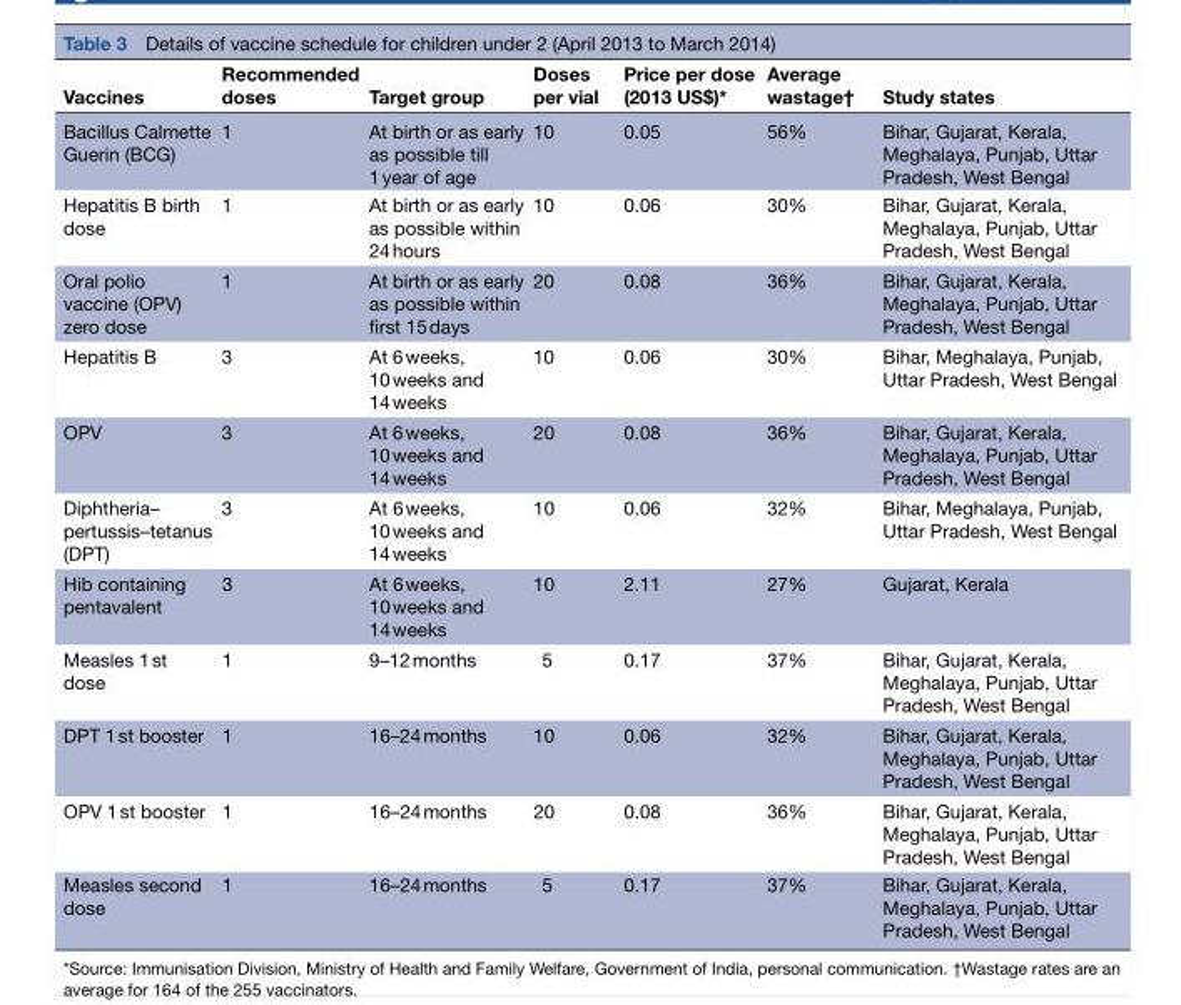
<table><thead><tr><td>Vaccines</td><td>Recommended doses</td><td>Target group</td><td>Doses per vial</td><td>Price per dose (2013 US$)*</td><td>Average wastage†</td><td>Study states</td></tr></thead><tbody><tr><td>Bacillus Calmette Guerin (BCG)</td><td>1</td><td>At birth or as early as possible till 1 year of age</td><td>10</td><td>0.05</td><td>56%</td><td>Bihar, Gujarat, Kerala, Meghalaya, Punjab, Uttar Pradesh, West Bengal</td></tr><tr><td>Hepatitis B birth dose</td><td>1</td><td>At birth or as early as possible within 24 hours</td><td>10</td><td>0.06</td><td>30%</td><td>Bihar, Gujarat, Kerala, Meghalaya, Punjab, Uttar Pradesh, West Bengal</td></tr><tr><td>Oral polio vaccine (OPV) zero dose</td><td>1</td><td>At birth or as early as possible within first 15 days</td><td>20</td><td>0.08</td><td>36%</td><td>Bihar, Gujarat, Kerala, Meghalaya, Punjab, Uttar Pradesh, West Bengal</td></tr><tr><td>Hepatitis B</td><td>3</td><td>At 6 weeks, 10 weeks and 14 weeks</td><td>10</td><td>0.06</td><td>30%</td><td>Bihar, Meghalaya, Punjab, Uttar Pradesh, West Bengal</td></tr><tr><td>OPV</td><td>3</td><td>At 6 weeks, 10 weeks and 14 weeks</td><td>20</td><td>0.08</td><td>36%</td><td>Bihar, Gujarat, Kerala, Meghalaya, Punjab, Uttar Pradesh, West Bengal</td></tr><tr><td>Diphtheria– pertussis–tetanus (DPT)</td><td>3</td><td>At 6 weeks, 10 weeks and 14 weeks</td><td>10</td><td>0.06</td><td>32%</td><td>Bihar, Meghalaya, Punjab, Uttar Pradesh, West Bengal</td></tr><tr><td>Hib containing pentavalent</td><td>3</td><td>At 6 weeks, 10 weeks and 14 weeks</td><td>10</td><td>2.11</td><td>27%</td><td>Gujarat, Kerala</td></tr><tr><td>Measles 1 st dose</td><td>1</td><td>9–12 months</td><td>5</td><td>0.17</td><td>37%</td><td>Bihar, Gujarat, Kerala, Meghalaya, Punjab, Uttar Pradesh, West Bengal</td></tr><tr><td>DPT 1 st booster</td><td>1</td><td>16–24 months</td><td>10</td><td>0.06</td><td>32%</td><td>Bihar, Gujarat, Kerala, Meghalaya, Punjab, Uttar Pradesh, West Bengal</td></tr><tr><td>OPV 1 st booster</td><td>1</td><td>16–24 months</td><td>20</td><td>0.08</td><td>36%</td><td>Bihar, Gujarat, Kerala, Meghalaya, Punjab, Uttar Pradesh, West Bengal</td></tr><tr><td>Measles second dose</td><td>1</td><td>16–24 months</td><td>5</td><td>0.17</td><td>37%</td><td>Bihar, Gujarat, Kerala, Meghalaya, Punjab, Uttar Pradesh, West Bengal</td></tr></tbody></table>